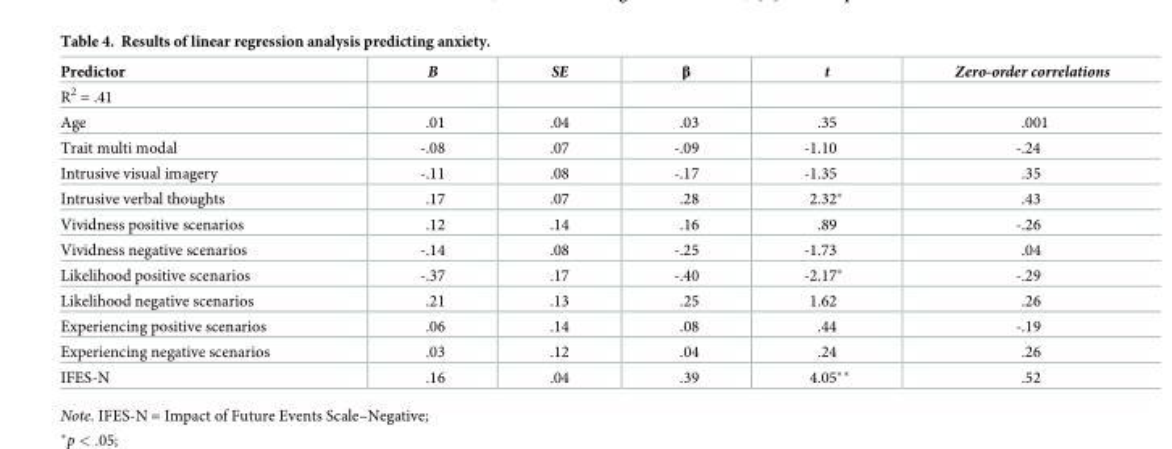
<table><thead><tr><td>Predictor</td><td>B</td><td>SE</td><td>β</td><td>t</td><td>Zero-order correlations</td></tr></thead><tbody><tr><td colspan="6">R<sup>2</sup> = .41</td></tr><tr><td>Age</td><td>.01</td><td>.04</td><td>.03</td><td>.35</td><td>.001</td></tr><tr><td>Trait multi modal</td><td>-.08</td><td>.07</td><td>-.09</td><td>-1.10</td><td>-.24</td></tr><tr><td>Intrusive visual imagery</td><td>-.11</td><td>.08</td><td>-.17</td><td>-1.35</td><td>.35</td></tr><tr><td>Intrusive verbal thoughts</td><td>.17</td><td>.07</td><td>.28</td><td>2.32*</td><td>.43</td></tr><tr><td>Vividness positive scenarios</td><td>.12</td><td>.14</td><td>.16</td><td>.89</td><td>-.26</td></tr><tr><td>Vividness negative scenarios</td><td>-.14</td><td>.08</td><td>-.25</td><td>-1.73</td><td>.04</td></tr><tr><td>Likelihood positive scenarios</td><td>-.37</td><td>.17</td><td>-.40</td><td>-2.17*</td><td>-.29</td></tr><tr><td>Likelihood negative scenarios</td><td>.21</td><td>.13</td><td>.25</td><td>1.62</td><td>.26</td></tr><tr><td>Experiencing positive scenarios</td><td>.06</td><td>.14</td><td>.08</td><td>.44</td><td>-.19</td></tr><tr><td>Experiencing negative scenarios</td><td>.03</td><td>.12</td><td>.04</td><td>.24</td><td>.26</td></tr><tr><td>IFES-N</td><td>.16</td><td>.04</td><td>.39</td><td>4.05**</td><td>.52</td></tr></tbody></table>